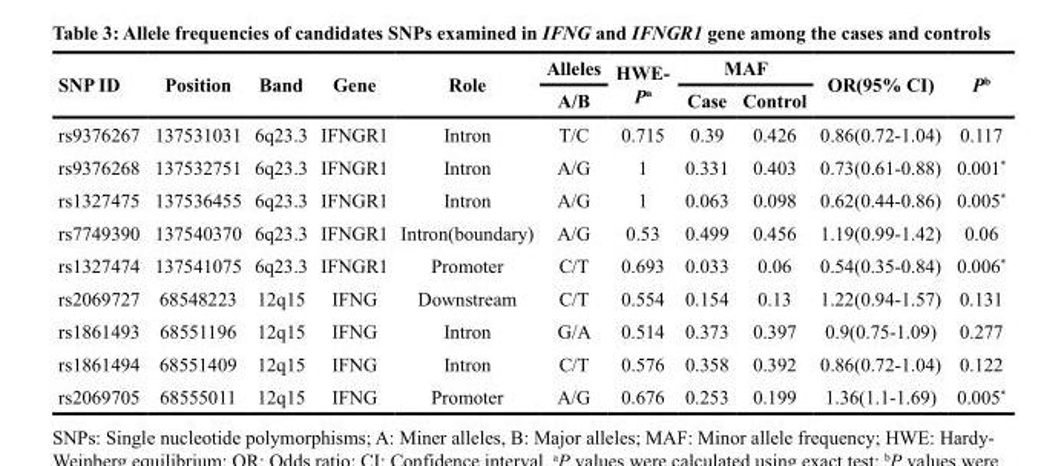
<table><thead><tr><td rowspan="2">SNP ID</td><td rowspan="2">Position</td><td rowspan="2">Band</td><td rowspan="2">Gene</td><td rowspan="2">Role</td><td rowspan="2">Alleles A/B</td><td rowspan="2">HWE- P<sup>a</sup></td><td colspan="2">MAF</td><td rowspan="2">OR(95% CI)</td><td rowspan="2">P<sup>b</sup></td></tr><tr><td>Case</td><td>Control</td></tr></thead><tbody><tr><td>rs9376267</td><td>137531031</td><td>6q23.3</td><td>IFNGR1</td><td>Intron</td><td>T/C</td><td>0.715</td><td>0.39</td><td>0.426</td><td>0.86(0.72-1.04)</td><td>0.117</td></tr><tr><td>rs9376268</td><td>137532751</td><td>6q23.3</td><td>IFNGR1</td><td>Intron</td><td>A/G</td><td>1</td><td>0.331</td><td>0.403</td><td>0.73(0.61-0.88)</td><td>0.001*</td></tr><tr><td>rs1327475</td><td>137536455</td><td>6q23.3</td><td>IFNGR1</td><td>Intron</td><td>A/G</td><td>1</td><td>0.063</td><td>0.098</td><td>0.62(0.44-0.86)</td><td>0.005*</td></tr><tr><td>rs7749390</td><td>137540370</td><td>6q23.3</td><td>IFNGR1</td><td>Intron(boundary)</td><td>A/G</td><td>0.53</td><td>0.499</td><td>0.456</td><td>1.19(0.99-1.42)</td><td>0.06</td></tr><tr><td>rs1327474</td><td>137541075</td><td>6q23.3</td><td>IFNGR1</td><td>Promoter</td><td>C/T</td><td>0.693</td><td>0.033</td><td>0.06</td><td>0.54(0.35-0.84)</td><td>0.006*</td></tr><tr><td>rs2069727</td><td>68548223</td><td>12q15</td><td>IFNG</td><td>Downstream</td><td>C/T</td><td>0.554</td><td>0.154</td><td>0.13</td><td>1.22(0.94-1.57)</td><td>0.131</td></tr><tr><td>rs1861493</td><td>68551196</td><td>12q15</td><td>IFNG</td><td>Intron</td><td>G/A</td><td>0.514</td><td>0.373</td><td>0.397</td><td>0.9(0.75-1.09)</td><td>0.277</td></tr><tr><td>rs1861494</td><td>68551409</td><td>12q15</td><td>IFNG</td><td>Intron</td><td>C/T</td><td>0.576</td><td>0.358</td><td>0.392</td><td>0.86(0.72-1.04)</td><td>0.122</td></tr><tr><td>rs2069705</td><td>68555011</td><td>12q15</td><td>IFNG</td><td>Promoter</td><td>A/G</td><td>0.676</td><td>0.253</td><td>0.199</td><td>1.36(1.1-1.69)</td><td>0.005*</td></tr></tbody></table>